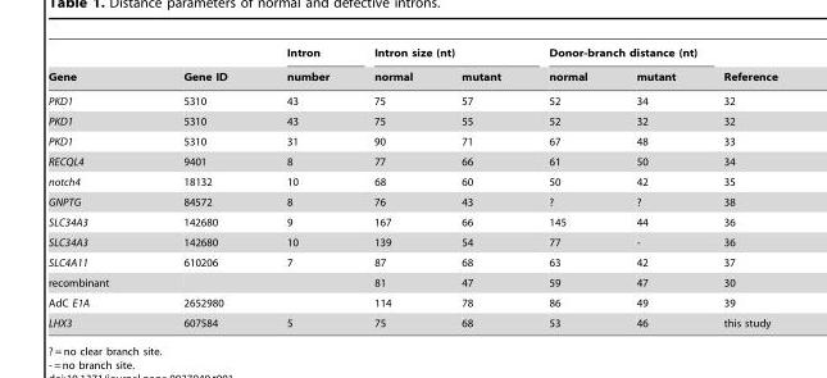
<table><thead><tr><td rowspan="2">Gene</td><td rowspan="2">Gene ID</td><td rowspan="2">Intron number</td><td colspan="2">Intron size (nt)</td><td colspan="2">Donor-branch distance (nt)</td><td rowspan="2">Reference</td></tr><tr><td>normal</td><td>mutant</td><td>normal</td><td>mutant</td></tr></thead><tbody><tr><td>PKD1</td><td>5310</td><td>43</td><td>75</td><td>57</td><td>52</td><td>34</td><td>32</td></tr><tr><td>PKD1</td><td>5310</td><td>43</td><td>75</td><td>55</td><td>52</td><td>32</td><td>32</td></tr><tr><td>PKD1</td><td>5310</td><td>31</td><td>90</td><td>71</td><td>67</td><td>48</td><td>33</td></tr><tr><td>RECQL4</td><td>9401</td><td>8</td><td>77</td><td>66</td><td>61</td><td>50</td><td>34</td></tr><tr><td>notch4</td><td>18132</td><td>10</td><td>68</td><td>60</td><td>50</td><td>42</td><td>35</td></tr><tr><td>GNPTG</td><td>84572</td><td>8</td><td>76</td><td>43</td><td>?</td><td>?</td><td>38</td></tr><tr><td>SLC34A3</td><td>142680</td><td>9</td><td>167</td><td>66</td><td>145</td><td>44</td><td>36</td></tr><tr><td>SLC34A3</td><td>142680</td><td>10</td><td>139</td><td>54</td><td>77</td><td>-</td><td>36</td></tr><tr><td>SLC4A11</td><td>610206</td><td>7</td><td>87</td><td>68</td><td>63</td><td>42</td><td>37</td></tr><tr><td>recombinant</td><td></td><td></td><td>81</td><td>47</td><td>59</td><td>47</td><td>30</td></tr><tr><td>AdC E1A</td><td>2652980</td><td></td><td>114</td><td>78</td><td>86</td><td>49</td><td>39</td></tr><tr><td>LHX3</td><td>607584</td><td>5</td><td>75</td><td>68</td><td>53</td><td>46</td><td>this study</td></tr></tbody></table>